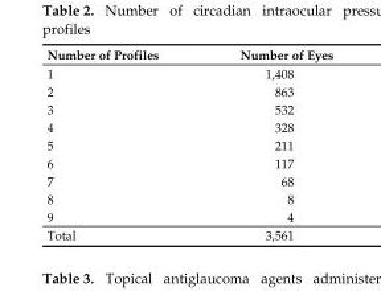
<table><thead><tr><td>Number of Profiles</td><td>Number of Eyes</td></tr></thead><tbody><tr><td>1</td><td>1,408</td></tr><tr><td>2</td><td>863</td></tr><tr><td>3</td><td>532</td></tr><tr><td>4</td><td>328</td></tr><tr><td>5</td><td>211</td></tr><tr><td>6</td><td>117</td></tr><tr><td>7</td><td>68</td></tr><tr><td>8</td><td>8</td></tr><tr><td>9</td><td>4</td></tr><tr><td>Total</td><td>3,561</td></tr></tbody></table>